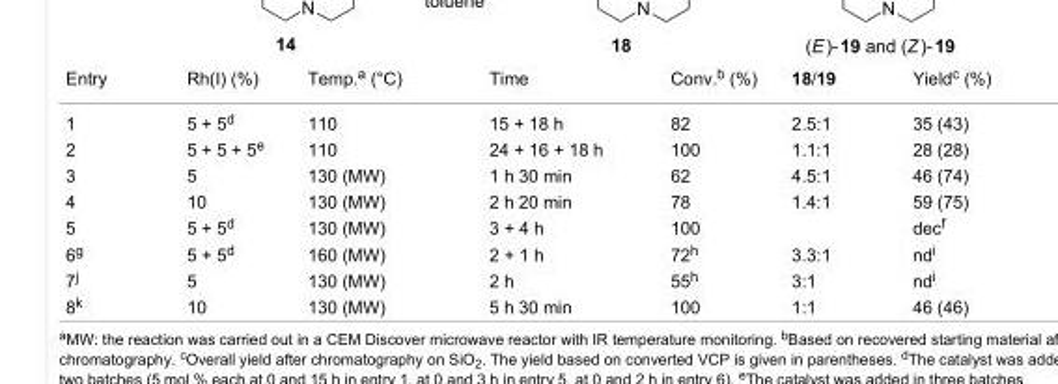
<table><tbody><tr><td>Entry</td><td>Rh(I) (%)</td><td>Temp.<sup>a</sup> (°C)</td><td>Time</td><td>Conv.<sup>b</sup> (%)</td><td>18/19</td><td>Yield<sup>c</sup> (%)</td></tr><tr><td>1</td><td>5 + 5<sup>d</sup></td><td>110</td><td>15 + 18 h</td><td>82</td><td>2.5:1</td><td>35 (43)</td></tr><tr><td>2</td><td>5 + 5 + 5<sup>e</sup></td><td>110</td><td>24 + 16 + 18 h</td><td>100</td><td>1.1:1</td><td>28 (28)</td></tr><tr><td>3</td><td>5</td><td>130 (MW)</td><td>1 h 30 min</td><td>62</td><td>4.5:1</td><td>46 (74)</td></tr><tr><td>4</td><td>10</td><td>130 (MW)</td><td>2 h 20 min</td><td>78</td><td>1.4:1</td><td>59 (75)</td></tr><tr><td>5</td><td>5 + 5<sup>d</sup></td><td>130 (MW)</td><td>3 + 4 h</td><td>100</td><td></td><td>dec<sup>f</sup></td></tr><tr><td>6<sup>g</sup></td><td>5 + 5<sup>d</sup></td><td>160 (MW)</td><td>2 + 1 h</td><td>72<sup>h</sup></td><td>3.3:1</td><td>nd<sup>i</sup></td></tr><tr><td>7<sup>j</sup></td><td>5</td><td>130 (MW)</td><td>2 h</td><td>55<sup>h</sup></td><td>3:1</td><td>nd<sup>i</sup></td></tr><tr><td>8<sup>k</sup></td><td>10</td><td>130 (MW)</td><td>5 h 30 min</td><td>100</td><td>1:1</td><td>46 (46)</td></tr></tbody></table>